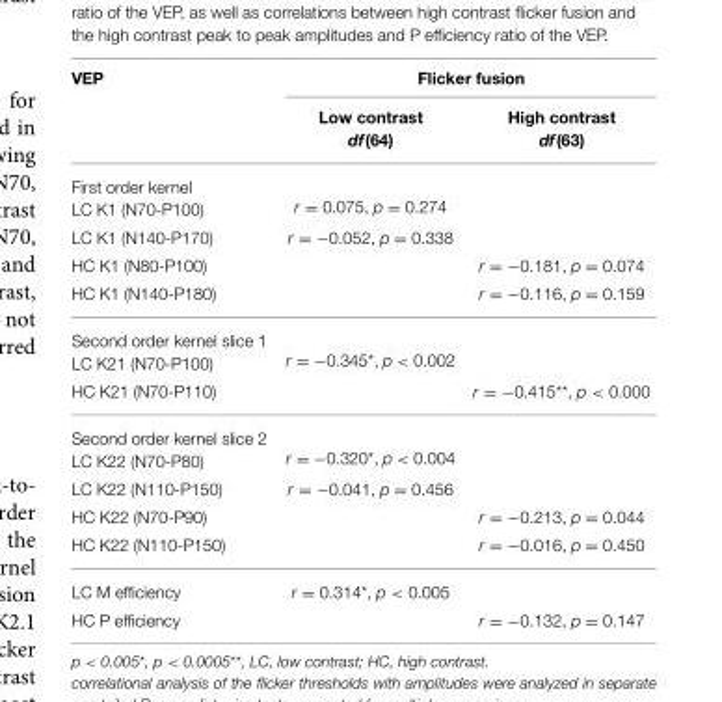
<table><thead><tr><td rowspan="2">VEP</td><td colspan="2">Flicker fusion</td></tr><tr><td>Low contrast df(64)</td><td>High contrast df(63)</td></tr></thead><tbody><tr><td>First order kernel LC K1 (N70-P100)</td><td>r = 0.075, p = 0.274</td><td></td></tr><tr><td>LC K1 (N140-P170)</td><td>r = −0.052, p = 0.338</td><td></td></tr><tr><td>HC K1 (N80-P100)</td><td></td><td>r = −0.181, p = 0.074</td></tr><tr><td>HC K1 (N140-P180)</td><td></td><td>r = −0.116, p = 0.159</td></tr><tr><td>Second order kernel slice 1 LC K21 (N70-P100)</td><td>r = −0.345*, p &lt; 0.002</td><td></td></tr><tr><td>HC K21 (N70-P110)</td><td></td><td>r = −0.415**, p &lt; 0.000</td></tr><tr><td>Second order kernel slice 2 LC K22 (N70-P80)</td><td>r = −0.320*, p &lt; 0.004</td><td></td></tr><tr><td>LC K22 (N110-P150)</td><td>r = −0.041, p = 0.456</td><td></td></tr><tr><td>HC K22 (N70-P90)</td><td></td><td>r = −0.213, p = 0.044</td></tr><tr><td>HC K22 (N110-P150)</td><td></td><td>r = −0.016, p = 0.450</td></tr><tr><td>LC M efficiency</td><td>r = 0.314*, p &lt; 0.005</td><td></td></tr><tr><td>HC P efficiency</td><td></td><td>r = −0.132, p = 0.147</td></tr></tbody></table>